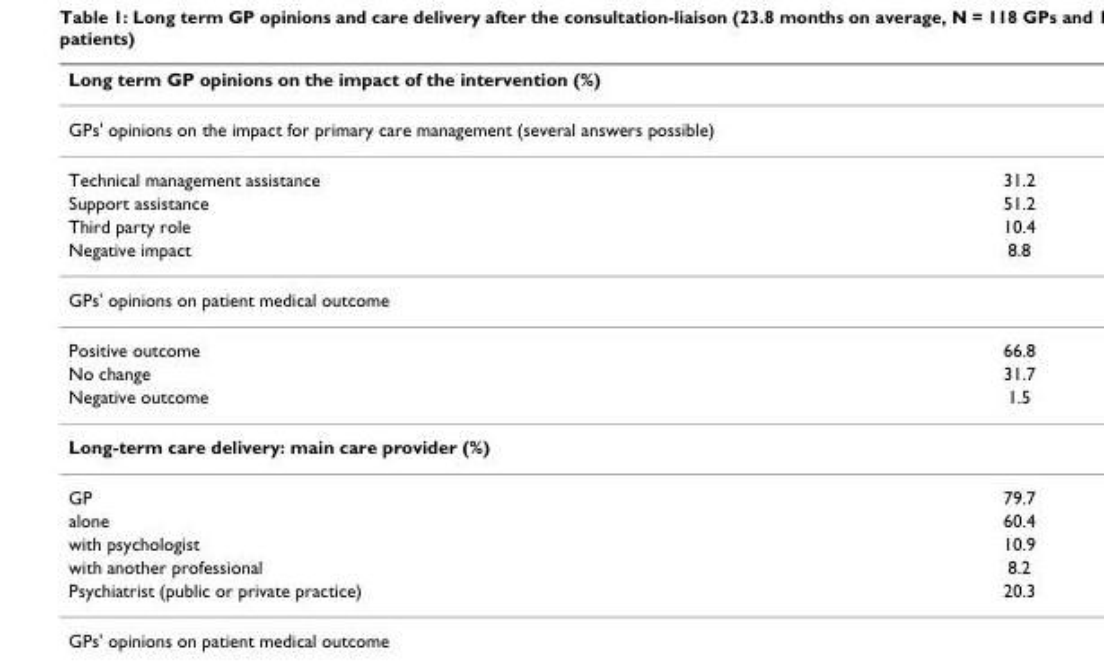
<table><thead><tr><td rowspan="2" colspan="2">Long term GP opinions on the impact of the intervention (%) GPs&#x27; opinions on the impact for primary care management (several answers possible)</td></tr><tr></tr><tr><td>Technical management assistance</td><td>31.2</td></tr></thead><tbody><tr><td>Support assistance</td><td>51.2</td></tr><tr><td>Third party role</td><td>10.4</td></tr><tr><td>Negative impact</td><td>8.8</td></tr><tr><td colspan="2">GPs&#x27; opinions on patient medical outcome</td></tr><tr><td>Positive outcome</td><td>66.8</td></tr><tr><td>No change</td><td>31.7</td></tr><tr><td>Negative outcome</td><td>1.5</td></tr><tr><td colspan="2">Long-term care delivery: main care provider (%)</td></tr><tr><td>GP</td><td>79.7</td></tr><tr><td>alone</td><td>60.4</td></tr><tr><td>with psychologist</td><td>10.9</td></tr><tr><td>with another professional</td><td>8.2</td></tr><tr><td>Psychiatrist (public or private practice)</td><td>20.3</td></tr></tbody></table>